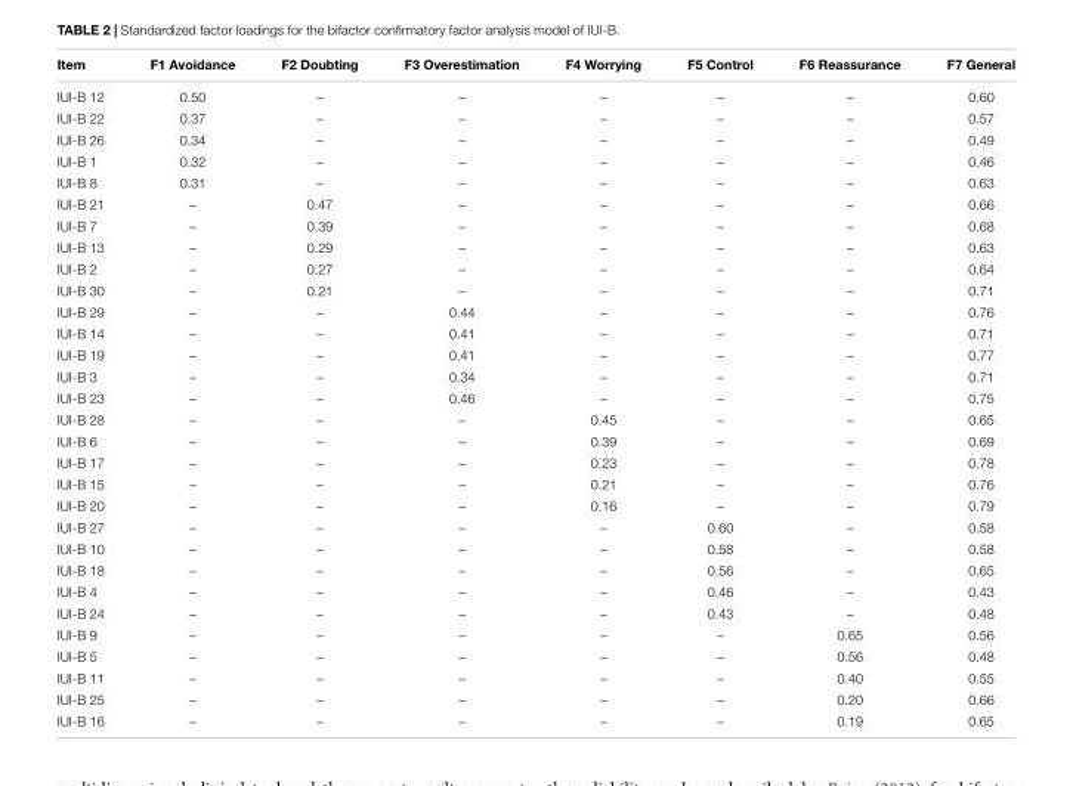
<table><thead><tr><td>Item</td><td>F1 Avoidance</td><td>F2 Doubting</td><td>F3 Overestimation</td><td>F4 Worrying</td><td>F5 Control</td><td>F6 Reassurance</td><td>F7 General</td></tr></thead><tbody><tr><td>IUI-B 12</td><td>0.50</td><td>–</td><td>–</td><td>–</td><td>–</td><td>–</td><td>0.60</td></tr><tr><td>IUI-B 22</td><td>0.37</td><td>–</td><td>–</td><td>–</td><td>–</td><td>–</td><td>0.57</td></tr><tr><td>IUI-B 26</td><td>0.34</td><td>–</td><td>–</td><td>–</td><td>–</td><td>–</td><td>0.49</td></tr><tr><td>IUI-B 1</td><td>0.32</td><td>–</td><td>–</td><td>–</td><td>–</td><td>–</td><td>0.46</td></tr><tr><td>IUI-B 8</td><td>0.31</td><td>–</td><td>–</td><td>–</td><td>–</td><td>–</td><td>0.63</td></tr><tr><td>IUI-B 21</td><td>–</td><td>0.47</td><td>–</td><td>–</td><td>–</td><td>–</td><td>0.66</td></tr><tr><td>IUI-B 7</td><td>–</td><td>0.39</td><td>–</td><td>–</td><td>–</td><td>–</td><td>0.68</td></tr><tr><td>IUI-B 13</td><td>–</td><td>0.29</td><td>–</td><td>–</td><td>–</td><td>–</td><td>0.63</td></tr><tr><td>IUI-B 2</td><td>–</td><td>0.27</td><td>–</td><td>–</td><td>–</td><td>–</td><td>0.64</td></tr><tr><td>IUI-B 30</td><td>–</td><td>0.21</td><td>–</td><td>–</td><td>–</td><td>–</td><td>0.71</td></tr><tr><td>IUI-B 29</td><td>–</td><td>–</td><td>0.44</td><td>–</td><td>–</td><td>–</td><td>0.76</td></tr><tr><td>IUI-B 14</td><td>–</td><td>–</td><td>0.41</td><td>–</td><td>–</td><td>–</td><td>0.71</td></tr><tr><td>IUI-B 19</td><td>–</td><td>–</td><td>0.41</td><td>–</td><td>–</td><td>–</td><td>0.77</td></tr><tr><td>IUI-B 3</td><td>–</td><td>–</td><td>0.34</td><td>–</td><td>–</td><td>–</td><td>0.71</td></tr><tr><td>IUI-B 23</td><td>–</td><td>–</td><td>0.46</td><td>–</td><td>–</td><td>–</td><td>0.75</td></tr><tr><td>IUI-B 28</td><td>–</td><td>–</td><td>–</td><td>0.45</td><td>–</td><td>–</td><td>0.65</td></tr><tr><td>IUI-B 6</td><td>–</td><td>–</td><td>–</td><td>0.39</td><td>–</td><td>–</td><td>0.69</td></tr><tr><td>IUI-B 17</td><td>–</td><td>–</td><td>–</td><td>0.23</td><td>–</td><td>–</td><td>0.78</td></tr><tr><td>IUI-B 15</td><td>–</td><td>–</td><td>–</td><td>0.21</td><td>–</td><td>–</td><td>0.76</td></tr><tr><td>IUI-B 20</td><td>–</td><td>–</td><td>–</td><td>0.16</td><td>–</td><td>–</td><td>0.79</td></tr><tr><td>IUI-B 27</td><td>–</td><td>–</td><td>–</td><td>–</td><td>0.60</td><td>–</td><td>0.58</td></tr><tr><td>IUI-B 10</td><td>–</td><td>–</td><td>–</td><td>–</td><td>0.58</td><td>–</td><td>0.58</td></tr><tr><td>IUI-B 18</td><td>–</td><td>–</td><td>–</td><td>–</td><td>0.56</td><td>–</td><td>0.65</td></tr><tr><td>IUI-B 4</td><td>–</td><td>–</td><td>–</td><td>–</td><td>0.46</td><td>–</td><td>0.43</td></tr><tr><td>IUI-B 24</td><td>–</td><td>–</td><td>–</td><td>–</td><td>0.43</td><td>–</td><td>0.48</td></tr><tr><td>IUI-B 9</td><td>–</td><td>–</td><td>–</td><td>–</td><td>–</td><td>0.65</td><td>0.56</td></tr><tr><td>IUI-B 5</td><td>–</td><td>–</td><td>–</td><td>–</td><td>–</td><td>0.56</td><td>0.48</td></tr><tr><td>IUI-B 11</td><td>–</td><td>–</td><td>–</td><td>–</td><td>–</td><td>0.40</td><td>0.55</td></tr><tr><td>IUI-B 25</td><td>–</td><td>–</td><td>–</td><td>–</td><td>–</td><td>0.20</td><td>0.66</td></tr><tr><td>IUI-B 16</td><td>–</td><td>–</td><td>–</td><td>–</td><td>–</td><td>0.19</td><td>0.65</td></tr></tbody></table>